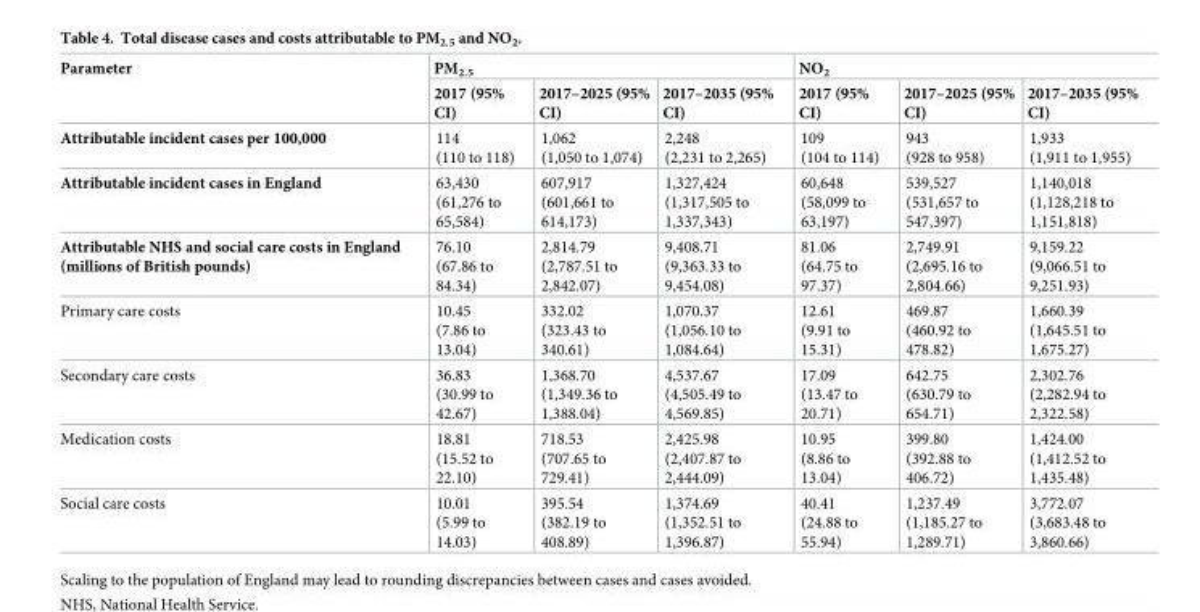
<table><thead><tr><td rowspan="2">Parameter</td><td colspan="3">PM<sub>2.5</sub></td><td colspan="3">NO<sub>2</sub></td></tr><tr><td>2017 (95% CI)</td><td>2017–2025 (95% CI)</td><td>2017–2035 (95% CI)</td><td>2017 (95% CI)</td><td>2017–2025 (95% CI)</td><td>2017–2035 (95% CI)</td></tr></thead><tbody><tr><td>Attributable incident cases per 100,000</td><td>114 (110 to 118)</td><td>1,062 (1,050 to 1,074)</td><td>2,248 (2,231 to 2,265)</td><td>109 (104 to 114)</td><td>943 (928 to 958)</td><td>1,933 (1,911 to 1,955)</td></tr><tr><td>Attributable incident cases in England</td><td>63,430 (61,276 to 65,584)</td><td>607,917 (601,661 to 614,173)</td><td>1,327,424 (1,317,505 to 1,337,343)</td><td>60,648 (58,099 to 63,197)</td><td>539,527 (531,657 to 547,397)</td><td>1,140,018 (1,128,218 to 1,151,818)</td></tr><tr><td>Attributable NHS and social care costs in England (millions of British pounds)</td><td>76.10 (67.86 to 84.34)</td><td>2,814.79 (2,787.51 to 2,842.07)</td><td>9,408.71 (9,363.33 to 9,454.08)</td><td>81.06 (64.75 to 97.37)</td><td>2,749.91 (2,695.16 to 2,804.66)</td><td>9,159.22 (9,066.51 to 9,251.93)</td></tr><tr><td>Primary care costs</td><td>10.45 (7.86 to 13.04)</td><td>332.02 (323.43 to 340.61)</td><td>1,070.37 (1,056.10 to 1,084.64)</td><td>12.61 (9.91 to 15.31)</td><td>469.87 (460.92 to 478.82)</td><td>1,660.39 (1,645.51 to 1,675.27)</td></tr><tr><td>Secondary care costs</td><td>36.83 (30.99 to 42.67)</td><td>1,368.70 (1,349.36 to 1,388.04)</td><td>4,537.67 (4,505.49 to 4,569.85)</td><td>17.09 (13.47 to 20.71)</td><td>642.75 (630.79 to 654.71)</td><td>2,302.76 (2,282.94 to 2,322.58)</td></tr><tr><td>Medication costs</td><td>18.81 (15.52 to 22.10)</td><td>718.53 (707.65 to 729.41)</td><td>2,425.98 (2,407.87 to 2,444.09)</td><td>10.95 (8.86 to 13.04)</td><td>399.80 (392.88 to 406.72)</td><td>1,424.00 (1,412.52 to 1,435.48)</td></tr><tr><td>Social care costs</td><td>10.01 (5.99 to 14.03)</td><td>395.54 (382.19 to 408.89)</td><td>1,374.69 (1,352.51 to 1,396.87)</td><td>40.41 (24.88 to 55.94)</td><td>1,237.49 (1,185.27 to 1,289.71)</td><td>3,772.07 (3,683.48 to 3,860.66)</td></tr></tbody></table>